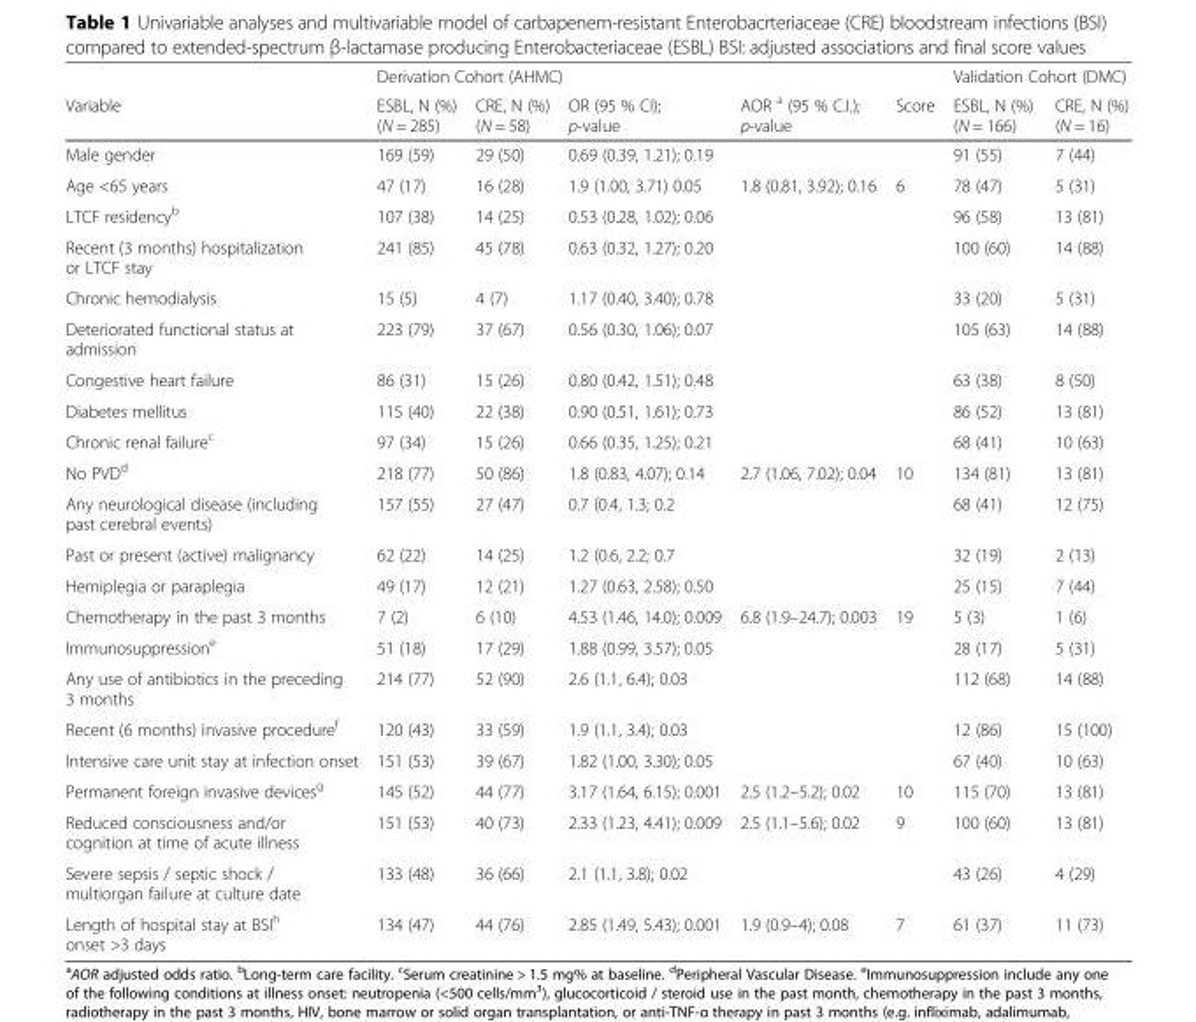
<table><thead><tr><td rowspan="2">Variable</td><td colspan="5">Derivation Cohort (AHMC)</td><td colspan="2">Validation Cohort (DMC)</td></tr><tr><td>ESBL, N (%) (N = 285)</td><td>CRE, N (%) (N = 58)</td><td>OR (95 % CI); p-value</td><td>AOR <sup>a</sup> (95 % C.I.); p-value</td><td>Score</td><td>ESBL, N (%) (N = 166)</td><td>CRE, N (%) (N = 16)</td></tr></thead><tbody><tr><td>Male gender</td><td>169 (59)</td><td>29 (50)</td><td>0.69 (0.39, 1.21); 0.19</td><td></td><td></td><td>91 (55)</td><td>7 (44)</td></tr><tr><td>Age &lt;65 years</td><td>47 (17)</td><td>16 (28)</td><td>1.9 (1.00, 3.71) 0.05</td><td>1.8 (0.81, 3.92); 0.16</td><td>6</td><td>78 (47)</td><td>5 (31)</td></tr><tr><td>LTCF residency<sup>b</sup></td><td>107 (38)</td><td>14 (25)</td><td>0.53 (0.28, 1.02); 0.06</td><td></td><td></td><td>96 (58)</td><td>13 (81)</td></tr><tr><td>Recent (3 months) hospitalization or LTCF stay</td><td>241 (85)</td><td>45 (78)</td><td>0.63 (0.32, 1.27); 0.20</td><td></td><td></td><td>100 (60)</td><td>14 (88)</td></tr><tr><td>Chronic hemodialysis</td><td>15 (5)</td><td>4 (7)</td><td>1.17 (0.40, 3.40); 0.78</td><td></td><td></td><td>33 (20)</td><td>5 (31)</td></tr><tr><td>Deteriorated functional status at admission</td><td>223 (79)</td><td>37 (67)</td><td>0.56 (0.30, 1.06); 0.07</td><td></td><td></td><td>105 (63)</td><td>14 (88)</td></tr><tr><td>Congestive heart failure</td><td>86 (31)</td><td>15 (26)</td><td>0.80 (0.42, 1.51); 0.48</td><td></td><td></td><td>63 (38)</td><td>8 (50)</td></tr><tr><td>Diabetes mellitus</td><td>115 (40)</td><td>22 (38)</td><td>0.90 (0.51, 1.61); 0.73</td><td></td><td></td><td>86 (52)</td><td>13 (81)</td></tr><tr><td>Chronic renal failure<sup>c</sup></td><td>97 (34)</td><td>15 (26)</td><td>0.66 (0.35, 1.25); 0.21</td><td></td><td></td><td>68 (41)</td><td>10 (63)</td></tr><tr><td>No PVD<sup>d</sup></td><td>218 (77)</td><td>50 (86)</td><td>1.8 (0.83, 4.07); 0.14</td><td>2.7 (1.06, 7.02); 0.04</td><td>10</td><td>134 (81)</td><td>13 (81)</td></tr><tr><td>Any neurological disease (including past cerebral events)</td><td>157 (55)</td><td>27 (47)</td><td>0.7 (0.4, 1.3; 0.2</td><td></td><td></td><td>68 (41)</td><td>12 (75)</td></tr><tr><td>Past or present (active) malignancy</td><td>62 (22)</td><td>14 (25)</td><td>1.2 (0.6, 2.2; 0.7</td><td></td><td></td><td>32 (19)</td><td>2 (13)</td></tr><tr><td>Hemiplegia or paraplegia</td><td>49 (17)</td><td>12 (21)</td><td>1.27 (0.63, 2.58); 0.50</td><td></td><td></td><td>25 (15)</td><td>7 (44)</td></tr><tr><td>Chemotherapy in the past 3 months</td><td>7 (2)</td><td>6 (10)</td><td>4.53 (1.46, 14.0); 0.009</td><td>6.8 (1.9–24.7); 0.003</td><td>19</td><td>5 (3)</td><td>1 (6)</td></tr><tr><td>Immunosuppression<sup>e</sup></td><td>51 (18)</td><td>17 (29)</td><td>1.88 (0.99, 3.57); 0.05</td><td></td><td></td><td>28 (17)</td><td>5 (31)</td></tr><tr><td>Any use of antibiotics in the preceding 3 months</td><td>214 (77)</td><td>52 (90)</td><td>2.6 (1.1, 6.4); 0.03</td><td></td><td></td><td>112 (68)</td><td>14 (88)</td></tr><tr><td>Recent (6 months) invasive procedure<sup>f</sup></td><td>120 (43)</td><td>33 (59)</td><td>1.9 (1.1, 3.4); 0.03</td><td></td><td></td><td>12 (86)</td><td>15 (100)</td></tr><tr><td>Intensive care unit stay at infection onset</td><td>151 (53)</td><td>39 (67)</td><td>1.82 (1.00, 3.30); 0.05</td><td></td><td></td><td>67 (40)</td><td>10 (63)</td></tr><tr><td>Permanent foreign invasive devices<sup>g</sup></td><td>145 (52)</td><td>44 (77)</td><td>3.17 (1.64, 6.15); 0.001</td><td>2.5 (1.2–5.2); 0.02</td><td>10</td><td>115 (70)</td><td>13 (81)</td></tr><tr><td>Reduced consciousness and/or cognition at time of acute illness</td><td>151 (53)</td><td>40 (73)</td><td>2.33 (1.23, 4.41); 0.009</td><td>2.5 (1.1–5.6); 0.02</td><td>9</td><td>100 (60)</td><td>13 (81)</td></tr><tr><td>Severe sepsis / septic shock / multiorgan failure at culture date</td><td>133 (48)</td><td>36 (66)</td><td>2.1 (1.1, 3.8); 0.02</td><td></td><td></td><td>43 (26)</td><td>4 (29)</td></tr><tr><td>Length of hospital stay at BSI<sup>h</sup> onset &gt;3 days</td><td>134 (47)</td><td>44 (76)</td><td>2.85 (1.49, 5.43); 0.001</td><td>1.9 (0.9–4); 0.08</td><td>7</td><td>61 (37)</td><td>11 (73)</td></tr></tbody></table>